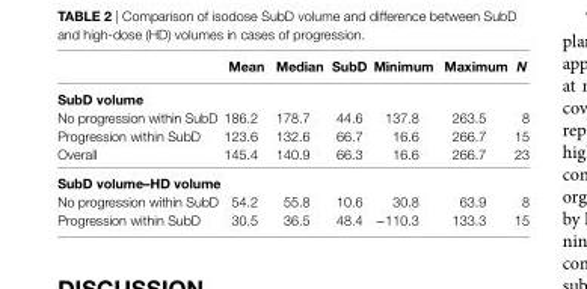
<table><thead><tr><td></td><td>Mean</td><td>Median</td><td>subD</td><td>Minimum</td><td>Maximum</td><td>N</td></tr></thead><tbody><tr><td colspan="7">subD volume</td></tr><tr><td>No progression within SubD</td><td>186.2</td><td>178.7</td><td>44.6</td><td>137.8</td><td>263.5</td><td>8</td></tr><tr><td>Progression within SubD</td><td>123.6</td><td>132.6</td><td>66.7</td><td>16.6</td><td>266.7</td><td>15</td></tr><tr><td>Overall</td><td>145.4</td><td>140.9</td><td>66.3</td><td>16.6</td><td>266.7</td><td>23</td></tr><tr><td colspan="7">subD volume–hD volume</td></tr><tr><td>No progression within SubD</td><td>54.2</td><td>55.8</td><td>10.6</td><td>30.8</td><td>63.9</td><td>8</td></tr><tr><td>Progression within SubD</td><td>30.5</td><td>36.5</td><td>48.4</td><td>−110.3</td><td>133.3</td><td>15</td></tr></tbody></table>